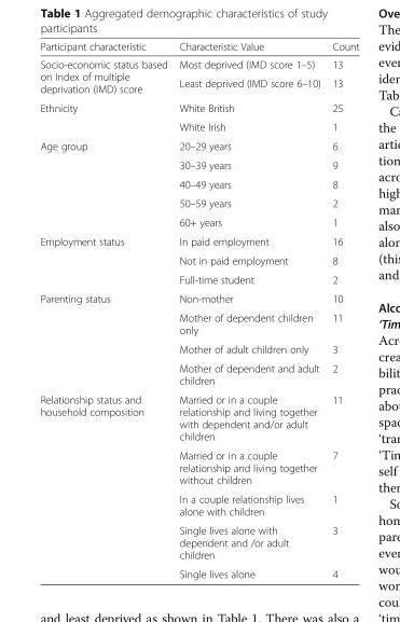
<table><thead><tr><td>Participant characteristic</td><td>Characteristic Value</td><td>Count</td></tr></thead><tbody><tr><td rowspan="2">Socio-economic status based on Index of multiple deprivation (IMD) score</td><td>Most deprived (IMD score 1–5)</td><td>13</td></tr><tr><td>Least deprived (IMD score 6–10)</td><td>13</td></tr><tr><td rowspan="2">Ethnicity</td><td>White British</td><td>25</td></tr><tr><td>White Irish</td><td>1</td></tr><tr><td rowspan="5">Age group</td><td>20–29 years</td><td>6</td></tr><tr><td>30–39 years</td><td>9</td></tr><tr><td>40–49 years</td><td>8</td></tr><tr><td>50–59 years</td><td>2</td></tr><tr><td>60+ years</td><td>1</td></tr><tr><td rowspan="3">Employment status</td><td>In paid employment</td><td>16</td></tr><tr><td>Not in paid employment</td><td>8</td></tr><tr><td>Full-time student</td><td>2</td></tr><tr><td rowspan="4">Parenting status</td><td>Non-mother</td><td>10</td></tr><tr><td>Mother of dependent children only</td><td>11</td></tr><tr><td>Mother of adult children only</td><td>3</td></tr><tr><td>Mother of dependent and adult children</td><td>2</td></tr><tr><td rowspan="5">Relationship status and household composition</td><td>Married or in a couple relationship and living together with dependent and/or adult children</td><td>11</td></tr><tr><td>Married or in a couple relationship and living together without children</td><td>7</td></tr><tr><td>In a couple relationship lives alone with children</td><td>1</td></tr><tr><td>Single lives alone with dependent and /or adult children</td><td>3</td></tr><tr><td>Single lives alone</td><td>4</td></tr></tbody></table>